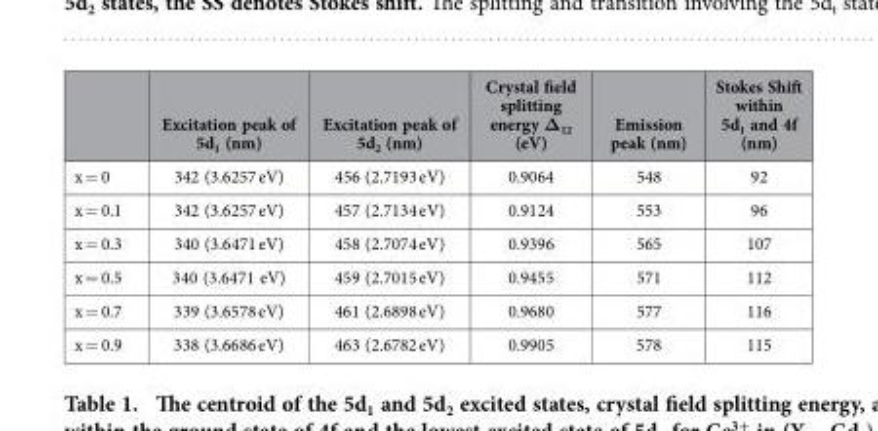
<table><thead><tr><td></td><td>Excitation peak of 5d<sub>1</sub> (nm)</td><td>Excitation peak of 5d<sub>2</sub> (nm)</td><td>Crystal field splitting energy Δ<sub>12</sub> (eV)</td><td>Emission peak (nm)</td><td>Stokes Shift within 5d<sub>1</sub> and 4f (nm)</td></tr></thead><tbody><tr><td>x = 0</td><td>342 (3.6257 eV)</td><td>456 (2.7193 eV)</td><td>0.9064</td><td>548</td><td>92</td></tr><tr><td>x = 0.1</td><td>342 (3.6257 eV)</td><td>457 (2.7134 eV)</td><td>0.9124</td><td>553</td><td>96</td></tr><tr><td>x = 0.3</td><td>340 (3.6471 eV)</td><td>458 (2.7074 eV)</td><td>0.9396</td><td>565</td><td>107</td></tr><tr><td>x = 0.5</td><td>340 (3.6471 eV)</td><td>459 (2.7015 eV)</td><td>0.9455</td><td>571</td><td>112</td></tr><tr><td>x = 0.7</td><td>339 (3.6578 eV)</td><td>461 (2.6898 eV)</td><td>0.9680</td><td>577</td><td>116</td></tr><tr><td>x = 0.9</td><td>338 (3.6686 eV)</td><td>463 (2.6782 eV)</td><td>0.9905</td><td>578</td><td>115</td></tr></tbody></table>